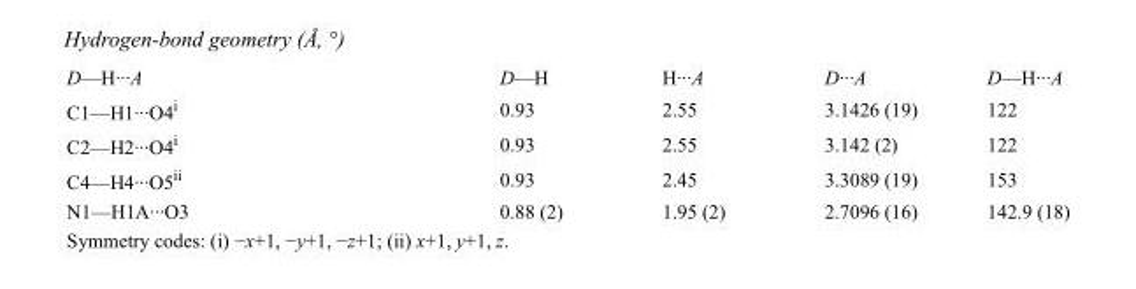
<table><tbody><tr><td>D—H···A</td><td>D—H</td><td>H···A</td><td>D···A</td><td>D—H···A</td></tr><tr><td>C1—H1···O4<sup>i</sup></td><td>0.93</td><td>2.55</td><td>3.1426 (19)</td><td>122</td></tr><tr><td>C2—H2···O4<sup>i</sup></td><td>0.93</td><td>2.55</td><td>3.142 (2)</td><td>122</td></tr><tr><td>C4—H4···O5<sup>ii</sup></td><td>0.93</td><td>2.45</td><td>3.3089 (19)</td><td>153</td></tr><tr><td>N1—H1A···O3</td><td>0.88 (2)</td><td>1.95 (2)</td><td>2.7096 (16)</td><td>142.9 (18)</td></tr></tbody></table>